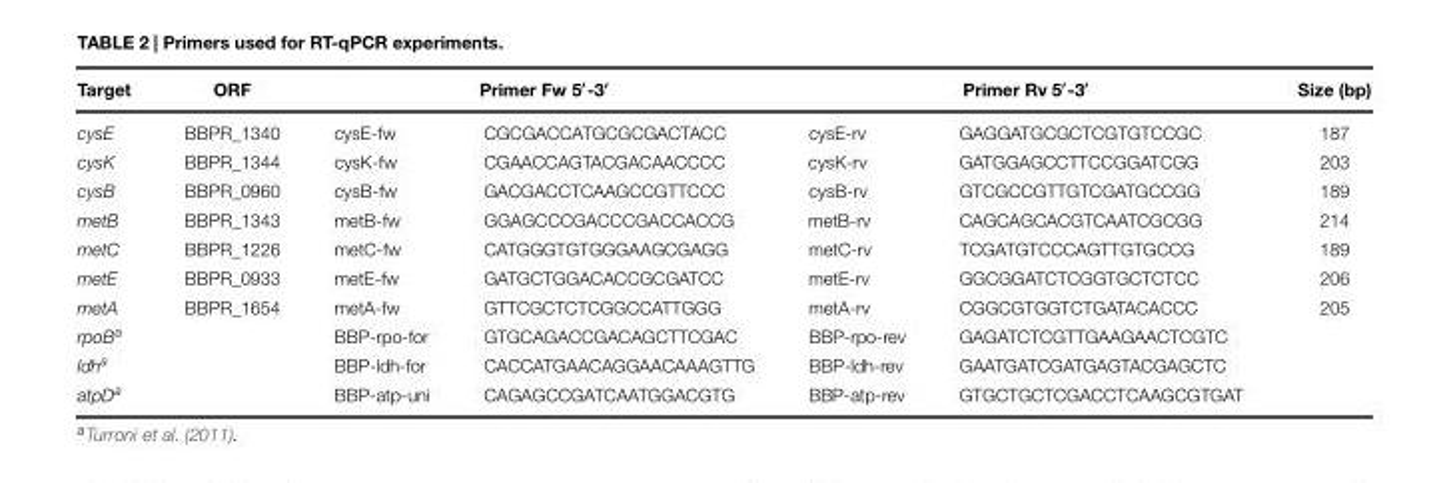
<table><thead><tr><td rowspan="2">Target cysE</td><td rowspan="2">ORF BBPR_1340</td><td colspan="2">Primer Fw 5′-3′</td><td colspan="2">Primer Rv 5′-3′</td><td rowspan="2">Size (bp) 187</td></tr><tr><td>cysE-fw</td><td>CGCGACCATGCGCGACTACC</td><td>cysE-rv</td><td>GAGGATGCGCTCGTGTCCGC</td></tr></thead><tbody><tr><td>cysK</td><td>BBPR_1344</td><td>cysK-fw</td><td>CGAACCAGTACGACAACCCC</td><td>cysK-rv</td><td>GATGGAGCCTTCCGGATCGG</td><td>203</td></tr><tr><td>cysB</td><td>BBPR_0960</td><td>cysB-fw</td><td>GACGACCTCAAGCCGTTCCC</td><td>cysB-rv</td><td>GTCGCCGTTGTCGATGCCGG</td><td>189</td></tr><tr><td>metB</td><td>BBPR_1343</td><td>metB-fw</td><td>GGAGCCCGACCCGACCACCG</td><td>metB-rv</td><td>CAGCAGCACGTCAATCGCGG</td><td>214</td></tr><tr><td>metC</td><td>BBPR_1226</td><td>metC-fw</td><td>CATGGGTGTGGGAAGCGAGG</td><td>metC-rv</td><td>TCGATGTCCCAGTTGTGCCG</td><td>189</td></tr><tr><td>metE</td><td>BBPR_0933</td><td>metE-fw</td><td>GATGCTGGACACCGCGATCC</td><td>metE-rv</td><td>GGCGGATCTCGGTGCTCTCC</td><td>206</td></tr><tr><td>metA</td><td>BBPR_1654</td><td>metA-fw</td><td>GTTCGCTCTCGGCCATTGGG</td><td>metA-rv</td><td>CGGCGTGGTCTGATACACCC</td><td>205</td></tr><tr><td>rpoB<sup>a</sup></td><td></td><td>BBP-rpo-for</td><td>GTGCAGACCGACAGCTTCGAC</td><td>BBP-rpo-rev</td><td>GAGATCTCGTTGAAGAACTCGTC</td><td></td></tr><tr><td>ldh<sup>a</sup></td><td></td><td>BBP-ldh-for</td><td>CACCATGAACAGGAACAAAGTTG</td><td>BBP-ldh-rev</td><td>GAATGATCGATGAGTACGAGCTC</td><td></td></tr><tr><td>atpD<sup>a</sup></td><td></td><td>BBP-atp-uni</td><td>CAGAGCCGATCAATGGACGTG</td><td>BBP-atp-rev</td><td>GTGCTGCTCGACCTCAAGCGTGAT</td><td></td></tr></tbody></table>